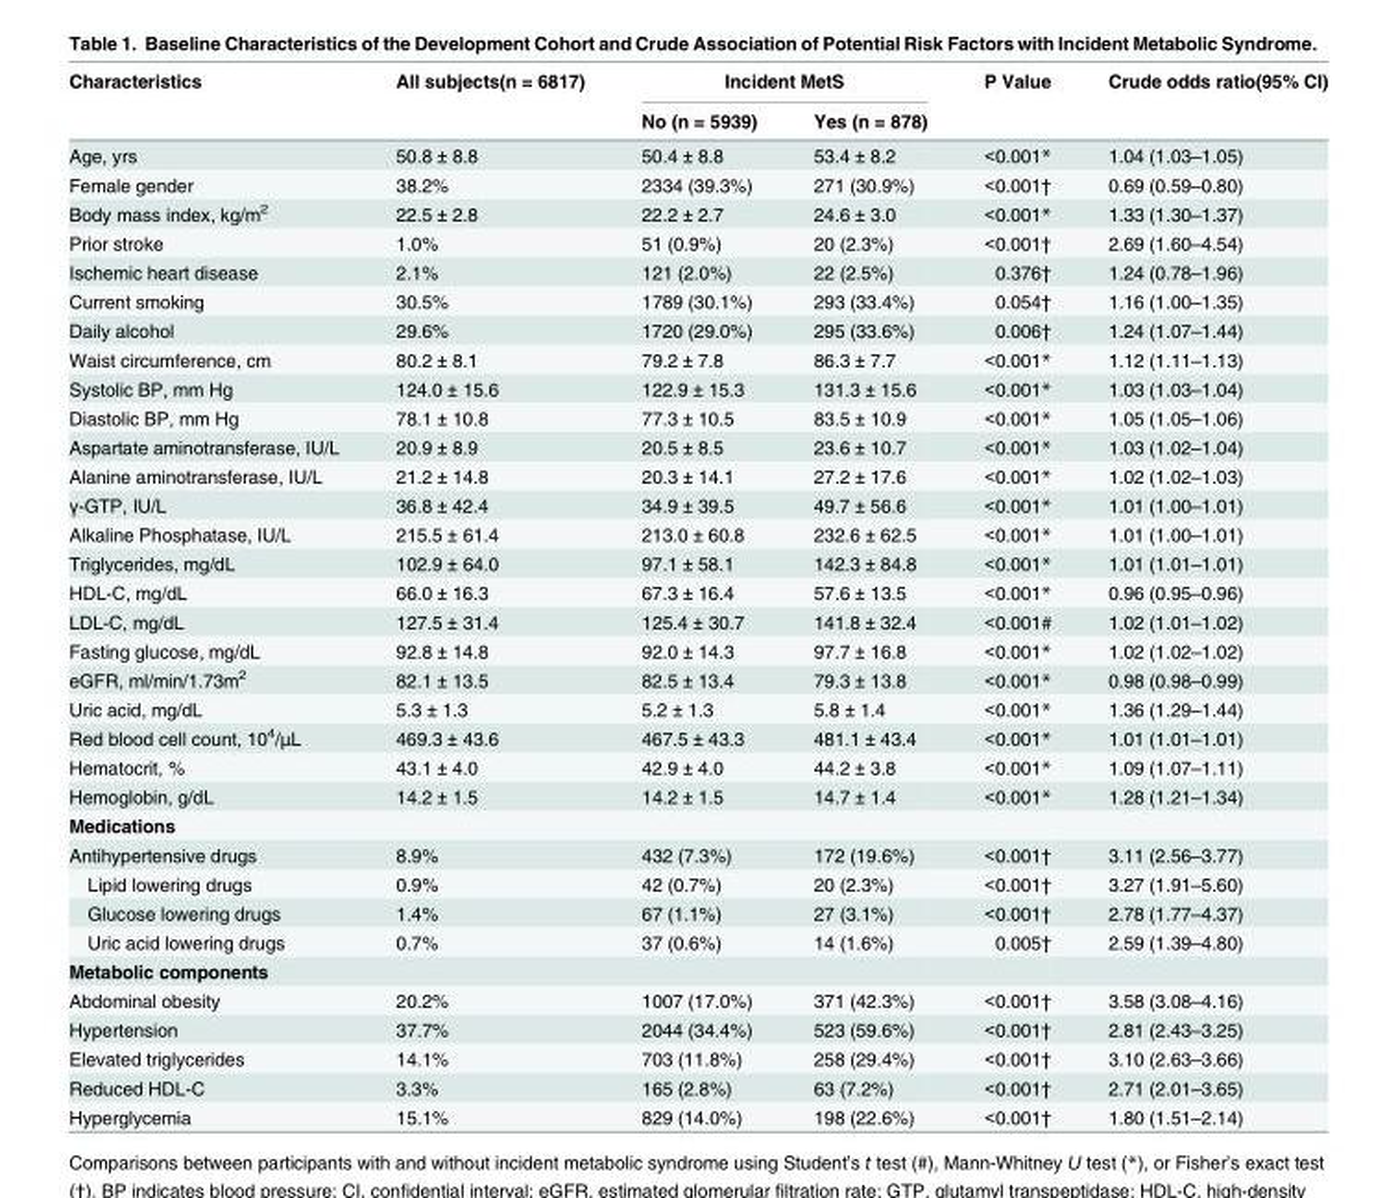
<table><thead><tr><td rowspan="2">Characteristics</td><td rowspan="2">All subjects(n = 6817)</td><td colspan="2">Incident MetS</td><td rowspan="2">P Value</td><td rowspan="2">Crude odds ratio(95% CI)</td></tr><tr><td>No (n = 5939)</td><td>Yes (n = 878)</td></tr></thead><tbody><tr><td>Age, yrs</td><td>50.8 ± 8.8</td><td>50.4 ± 8.8</td><td>53.4 ± 8.2</td><td>&lt;0.001*</td><td>1.04 (1.03–1.05)</td></tr><tr><td>Female gender</td><td>38.2%</td><td>2334 (39.3%)</td><td>271 (30.9%)</td><td>&lt;0.001†</td><td>0.69 (0.59–0.80)</td></tr><tr><td>Body mass index, kg/m<sup>2</sup></td><td>22.5 ± 2.8</td><td>22.2 ± 2.7</td><td>24.6 ± 3.0</td><td>&lt;0.001*</td><td>1.33 (1.30–1.37)</td></tr><tr><td>Prior stroke</td><td>1.0%</td><td>51 (0.9%)</td><td>20 (2.3%)</td><td>&lt;0.001†</td><td>2.69 (1.60–4.54)</td></tr><tr><td>Ischemic heart disease</td><td>2.1%</td><td>121 (2.0%)</td><td>22 (2.5%)</td><td>0.376†</td><td>1.24 (0.78–1.96)</td></tr><tr><td>Current smoking</td><td>30.5%</td><td>1789 (30.1%)</td><td>293 (33.4%)</td><td>0.054†</td><td>1.16 (1.00–1.35)</td></tr><tr><td>Daily alcohol</td><td>29.6%</td><td>1720 (29.0%)</td><td>295 (33.6%)</td><td>0.006†</td><td>1.24 (1.07–1.44)</td></tr><tr><td>Waist circumference, cm</td><td>80.2 ± 8.1</td><td>79.2 ± 7.8</td><td>86.3 ± 7.7</td><td>&lt;0.001*</td><td>1.12 (1.11–1.13)</td></tr><tr><td>Systolic BP, mm Hg</td><td>124.0 ± 15.6</td><td>122.9 ± 15.3</td><td>131.3 ± 15.6</td><td>&lt;0.001*</td><td>1.03 (1.03–1.04)</td></tr><tr><td>Diastolic BP, mm Hg</td><td>78.1 ± 10.8</td><td>77.3 ± 10.5</td><td>83.5 ± 10.9</td><td>&lt;0.001*</td><td>1.05 (1.05–1.06)</td></tr><tr><td>Aspartate aminotransferase, IU/L</td><td>20.9 ± 8.9</td><td>20.5 ± 8.5</td><td>23.6 ± 10.7</td><td>&lt;0.001*</td><td>1.03 (1.02–1.04)</td></tr><tr><td>Alanine aminotransferase, IU/L</td><td>21.2 ± 14.8</td><td>20.3 ± 14.1</td><td>27.2 ± 17.6</td><td>&lt;0.001*</td><td>1.02 (1.02–1.03)</td></tr><tr><td>γ-GTP, IU/L</td><td>36.8 ± 42.4</td><td>34.9 ± 39.5</td><td>49.7 ± 56.6</td><td>&lt;0.001*</td><td>1.01 (1.00–1.01)</td></tr><tr><td>Alkaline Phosphatase, IU/L</td><td>215.5 ± 61.4</td><td>213.0 ± 60.8</td><td>232.6 ± 62.5</td><td>&lt;0.001*</td><td>1.01 (1.00–1.01)</td></tr><tr><td>Triglycerides, mg/dL</td><td>102.9 ± 64.0</td><td>97.1 ± 58.1</td><td>142.3 ± 84.8</td><td>&lt;0.001*</td><td>1.01 (1.01–1.01)</td></tr><tr><td>HDL-C, mg/dL</td><td>66.0 ± 16.3</td><td>67.3 ± 16.4</td><td>57.6 ± 13.5</td><td>&lt;0.001*</td><td>0.96 (0.95–0.96)</td></tr><tr><td>LDL-C, mg/dL</td><td>127.5 ± 31.4</td><td>125.4 ± 30.7</td><td>141.8 ± 32.4</td><td>&lt;0.001#</td><td>1.02 (1.01–1.02)</td></tr><tr><td>Fasting glucose, mg/dL</td><td>92.8 ± 14.8</td><td>92.0 ± 14.3</td><td>97.7 ± 16.8</td><td>&lt;0.001*</td><td>1.02 (1.02–1.02)</td></tr><tr><td>eGFR, ml/min/1.73m<sup>2</sup></td><td>82.1 ± 13.5</td><td>82.5 ± 13.4</td><td>79.3 ± 13.8</td><td>&lt;0.001*</td><td>0.98 (0.98–0.99)</td></tr><tr><td>Uric acid, mg/dL</td><td>5.3 ± 1.3</td><td>5.2 ± 1.3</td><td>5.8 ± 1.4</td><td>&lt;0.001*</td><td>1.36 (1.29–1.44)</td></tr><tr><td>Red blood cell count, 10<sup>4</sup>/μL</td><td>469.3 ± 43.6</td><td>467.5 ± 43.3</td><td>481.1 ± 43.4</td><td>&lt;0.001*</td><td>1.01 (1.01–1.01)</td></tr><tr><td>Hematocrit, %</td><td>43.1 ± 4.0</td><td>42.9 ± 4.0</td><td>44.2 ± 3.8</td><td>&lt;0.001*</td><td>1.09 (1.07–1.11)</td></tr><tr><td>Hemoglobin, g/dL</td><td>14.2 ± 1.5</td><td>14.2 ± 1.5</td><td>14.7 ± 1.4</td><td>&lt;0.001*</td><td>1.28 (1.21–1.34)</td></tr><tr><td colspan="6">Medications</td></tr><tr><td>Antihypertensive drugs</td><td>8.9%</td><td>432 (7.3%)</td><td>172 (19.6%)</td><td>&lt;0.001†</td><td>3.11 (2.56–3.77)</td></tr><tr><td>Lipid lowering drugs</td><td>0.9%</td><td>42 (0.7%)</td><td>20 (2.3%)</td><td>&lt;0.001†</td><td>3.27 (1.91–5.60)</td></tr><tr><td>Glucose lowering drugs</td><td>1.4%</td><td>67 (1.1%)</td><td>27 (3.1%)</td><td>&lt;0.001†</td><td>2.78 (1.77–4.37)</td></tr><tr><td>Uric acid lowering drugs</td><td>0.7%</td><td>37 (0.6%)</td><td>14 (1.6%)</td><td>0.005†</td><td>2.59 (1.39–4.80)</td></tr><tr><td colspan="6">Metabolic components</td></tr><tr><td>Abdominal obesity</td><td>20.2%</td><td>1007 (17.0%)</td><td>371 (42.3%)</td><td>&lt;0.001†</td><td>3.58 (3.08–4.16)</td></tr><tr><td>Hypertension</td><td>37.7%</td><td>2044 (34.4%)</td><td>523 (59.6%)</td><td>&lt;0.001†</td><td>2.81 (2.43–3.25)</td></tr><tr><td>Elevated triglycerides</td><td>14.1%</td><td>703 (11.8%)</td><td>258 (29.4%)</td><td>&lt;0.001†</td><td>3.10 (2.63–3.66)</td></tr><tr><td>Reduced HDL-C</td><td>3.3%</td><td>165 (2.8%)</td><td>63 (7.2%)</td><td>&lt;0.001†</td><td>2.71 (2.01–3.65)</td></tr><tr><td>Hyperglycemia</td><td>15.1%</td><td>829 (14.0%)</td><td>198 (22.6%)</td><td>&lt;0.001†</td><td>1.80 (1.51–2.14)</td></tr></tbody></table>